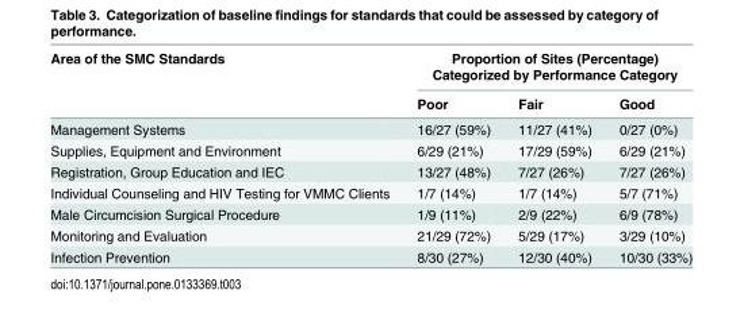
<table><thead><tr><td rowspan="2">Area of the SMC Standards</td><td colspan="3">Proportion of Sites (Percentage) Categorized by Performance Category</td></tr><tr><td>Poor</td><td>Fair</td><td>Good</td></tr></thead><tbody><tr><td>Management Systems</td><td>16/27 (59%)</td><td>11/27 (41%)</td><td>0/27 (0%)</td></tr><tr><td>Supplies, Equipment and Environment</td><td>6/29 (21%)</td><td>17/29 (59%)</td><td>6/29 (21%)</td></tr><tr><td>Registration, Group Education and IEC</td><td>13/27 (48%)</td><td>7/27 (26%)</td><td>7/27 (26%)</td></tr><tr><td>Individual Counseling and HIV Testing for VMMC Clients</td><td>1/7 (14%)</td><td>1/7 (14%)</td><td>5/7 (71%)</td></tr><tr><td>Male Circumcision Surgical Procedure</td><td>1/9 (11%)</td><td>2/9 (22%)</td><td>6/9 (78%)</td></tr><tr><td>Monitoring and Evaluation</td><td>21/29 (72%)</td><td>5/29 (17%)</td><td>3/29 (10%)</td></tr><tr><td>Infection Prevention</td><td>8/30 (27%)</td><td>12/30 (40%)</td><td>10/30 (33%)</td></tr></tbody></table>